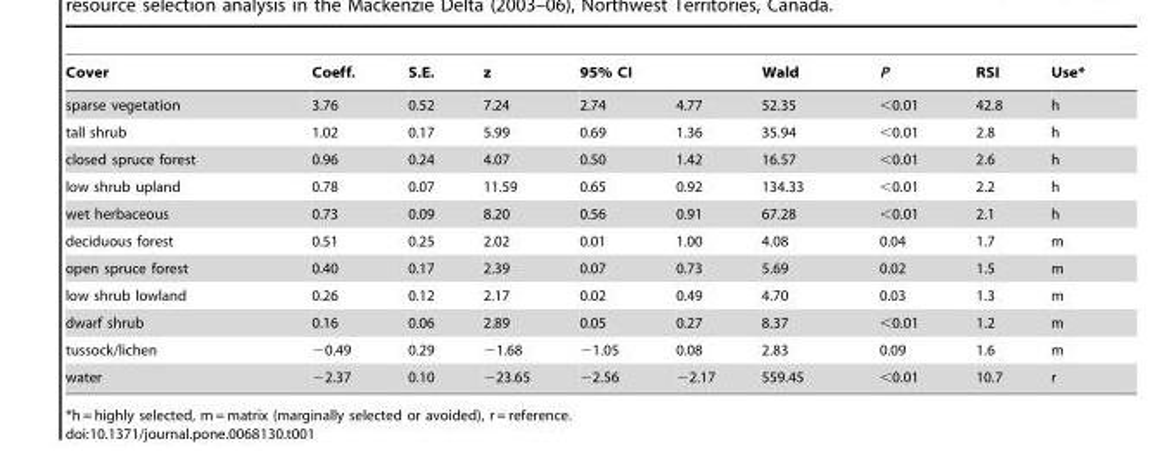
<table><thead><tr><td rowspan="2">Cover sparse vegetation</td><td rowspan="2">Coeff. 3.76</td><td rowspan="2">S.E. 0.52</td><td rowspan="2">z 7.24</td><td colspan="2">95% CI</td><td rowspan="2">Wald 52.35</td><td rowspan="2">P &lt;0.01</td><td rowspan="2">RSI 42.8</td><td rowspan="2">Use* h</td></tr><tr><td>2.74</td><td>4.77</td></tr></thead><tbody><tr><td>tall shrub</td><td>1.02</td><td>0.17</td><td>5.99</td><td>0.69</td><td>1.36</td><td>35.94</td><td>&lt;0.01</td><td>2.8</td><td>h</td></tr><tr><td>closed spruce forest</td><td>0.96</td><td>0.24</td><td>4.07</td><td>0.50</td><td>1.42</td><td>16.57</td><td>&lt;0.01</td><td>2.6</td><td>h</td></tr><tr><td>low shrub upland</td><td>0.78</td><td>0.07</td><td>11.59</td><td>0.65</td><td>0.92</td><td>134.33</td><td>&lt;0.01</td><td>2.2</td><td>h</td></tr><tr><td>wet herbaceous</td><td>0.73</td><td>0.09</td><td>8.20</td><td>0.56</td><td>0.91</td><td>67.28</td><td>&lt;0.01</td><td>2.1</td><td>h</td></tr><tr><td>deciduous forest</td><td>0.51</td><td>0.25</td><td>2.02</td><td>0.01</td><td>1.00</td><td>4.08</td><td>0.04</td><td>1.7</td><td>m</td></tr><tr><td>open spruce forest</td><td>0.40</td><td>0.17</td><td>2.39</td><td>0.07</td><td>0.73</td><td>5.69</td><td>0.02</td><td>1.5</td><td>m</td></tr><tr><td>low shrub lowland</td><td>0.26</td><td>0.12</td><td>2.17</td><td>0.02</td><td>0.49</td><td>4.70</td><td>0.03</td><td>1.3</td><td>m</td></tr><tr><td>dwarf shrub</td><td>0.16</td><td>0.06</td><td>2.89</td><td>0.05</td><td>0.27</td><td>8.37</td><td>&lt;0.01</td><td>1.2</td><td>m</td></tr><tr><td>tussock/lichen</td><td>−0.49</td><td>0.29</td><td>−1.68</td><td>−1.05</td><td>0.08</td><td>2.83</td><td>0.09</td><td>1.6</td><td>m</td></tr><tr><td>water</td><td>−2.37</td><td>0.10</td><td>−23.65</td><td>−2.56</td><td>−2.17</td><td>559.45</td><td>&lt;0.01</td><td>10.7</td><td>r</td></tr></tbody></table>